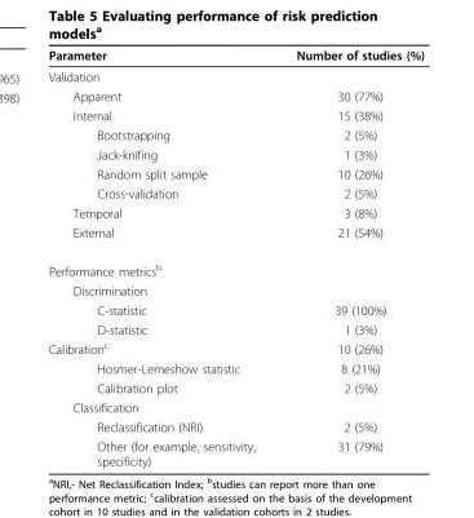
<table><thead><tr><td>Parameter</td><td>Number of studies (%)</td></tr></thead><tbody><tr><td colspan="2">Validation</td></tr><tr><td>Apparent</td><td>30 (77%)</td></tr><tr><td>Internal</td><td>15 (38%)</td></tr><tr><td>Bootstrapping</td><td>2 (5%)</td></tr><tr><td>Jack-knifing</td><td>1 (3%)</td></tr><tr><td>Random split sample</td><td>10 (26%)</td></tr><tr><td>Cross-validation</td><td>2 (5%)</td></tr><tr><td>Temporal</td><td>3 (8%)</td></tr><tr><td>External</td><td>21 (54%)</td></tr><tr><td colspan="2">Performance metrics<sup>b</sup></td></tr><tr><td colspan="2">Discrimination</td></tr><tr><td>C-statistic</td><td>39 (100%)</td></tr><tr><td>D-statistic</td><td>1 (3%)</td></tr><tr><td>Calibration<sup>c</sup></td><td>10 (26%)</td></tr><tr><td>Hosmer-Lemeshow statistic</td><td>8 (21%)</td></tr><tr><td>Calibration plot</td><td>2 (5%)</td></tr><tr><td colspan="2">Classification</td></tr><tr><td>Reclassification (NRI)</td><td>2 (5%)</td></tr><tr><td>Other (for example, sensitivity, specificity)</td><td>31 (79%)</td></tr></tbody></table>